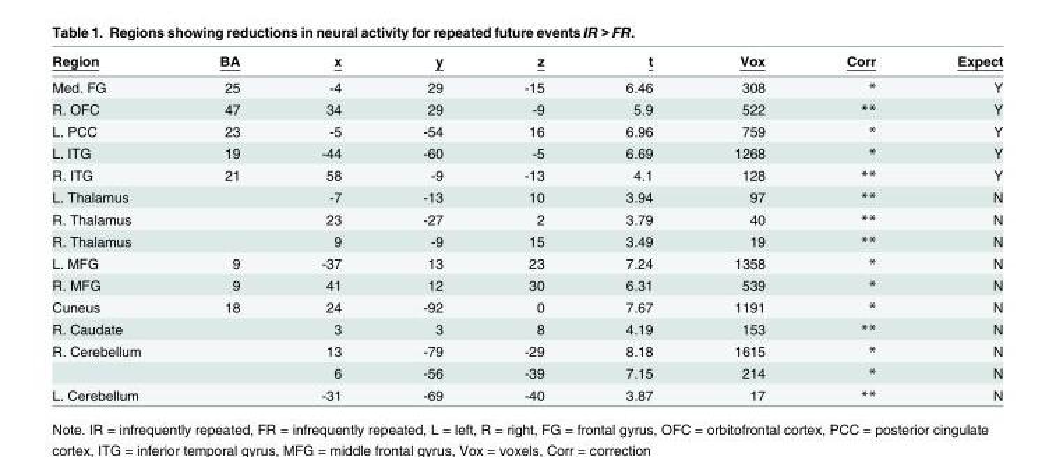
<table><thead><tr><td>Region</td><td>BA</td><td>x</td><td>y</td><td>z</td><td>t</td><td>Vox</td><td>Corr</td><td>Expect</td></tr></thead><tbody><tr><td>Med. FG</td><td>25</td><td>-4</td><td>29</td><td>-15</td><td>6.46</td><td>308</td><td>*</td><td>Y</td></tr><tr><td>R. OFC</td><td>47</td><td>34</td><td>29</td><td>-9</td><td>5.9</td><td>522</td><td>**</td><td>Y</td></tr><tr><td>L. PCC</td><td>23</td><td>-5</td><td>-54</td><td>16</td><td>6.96</td><td>759</td><td>*</td><td>Y</td></tr><tr><td>L. ITG</td><td>19</td><td>-44</td><td>-60</td><td>-5</td><td>6.69</td><td>1268</td><td>*</td><td>Y</td></tr><tr><td>R. ITG</td><td>21</td><td>58</td><td>-9</td><td>-13</td><td>4.1</td><td>128</td><td>**</td><td>Y</td></tr><tr><td>L. Thalamus</td><td></td><td>-7</td><td>-13</td><td>10</td><td>3.94</td><td>97</td><td>**</td><td>N</td></tr><tr><td>R. Thalamus</td><td></td><td>23</td><td>-27</td><td>2</td><td>3.79</td><td>40</td><td>**</td><td>N</td></tr><tr><td>R. Thalamus</td><td></td><td>9</td><td>-9</td><td>15</td><td>3.49</td><td>19</td><td>**</td><td>N</td></tr><tr><td>L. MFG</td><td>9</td><td>-37</td><td>13</td><td>23</td><td>7.24</td><td>1358</td><td>*</td><td>N</td></tr><tr><td>R. MFG</td><td>9</td><td>41</td><td>12</td><td>30</td><td>6.31</td><td>539</td><td>*</td><td>N</td></tr><tr><td>Cuneus</td><td>18</td><td>24</td><td>-92</td><td>0</td><td>7.67</td><td>1191</td><td>*</td><td>N</td></tr><tr><td>R. Caudate</td><td></td><td>3</td><td>3</td><td>8</td><td>4.19</td><td>153</td><td>**</td><td>N</td></tr><tr><td colspan="2">R. Cerebellum</td><td>13</td><td>-79</td><td>-29</td><td>8.18</td><td>1615</td><td>*</td><td>N</td></tr><tr><td></td><td></td><td>6</td><td>-56</td><td>-39</td><td>7.15</td><td>214</td><td>*</td><td>N</td></tr><tr><td>L. Cerebellum</td><td></td><td>-31</td><td>-69</td><td>-40</td><td>3.87</td><td>17</td><td>**</td><td>N</td></tr></tbody></table>